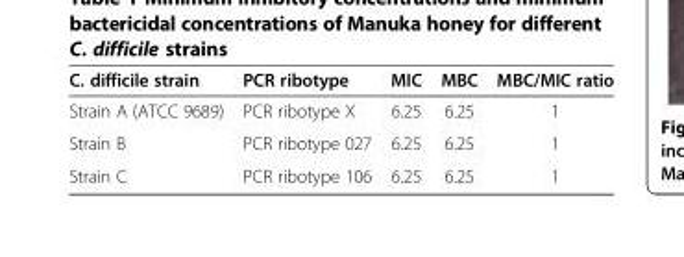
<table><thead><tr><td>C. difficile strain</td><td>PCR ribotype</td><td>MIC</td><td>MBC</td><td>MBC/MIC ratio</td></tr></thead><tbody><tr><td>Strain A (ATCC 9689)</td><td>PCR ribotype X</td><td>6.25</td><td>6.25</td><td>1</td></tr><tr><td>Strain B</td><td>PCR ribotype 027</td><td>6.25</td><td>6.25</td><td>1</td></tr><tr><td>Strain C</td><td>PCR ribotype 106</td><td>6.25</td><td>6.25</td><td>1</td></tr></tbody></table>